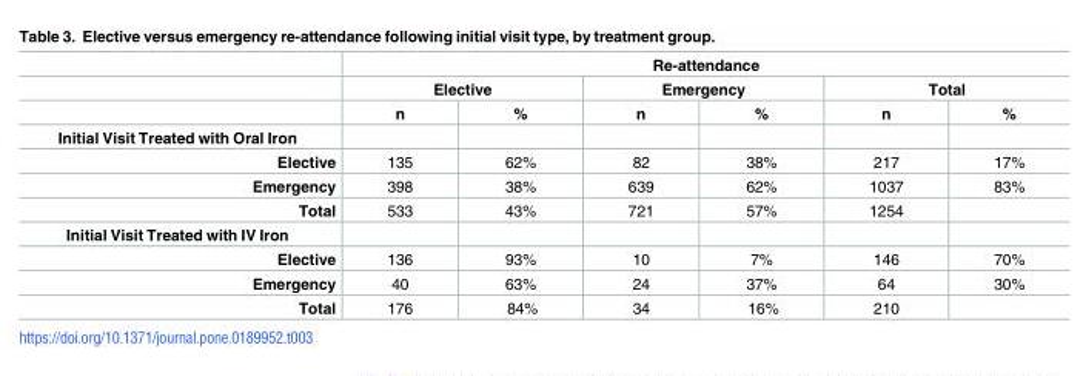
<table><thead><tr><td rowspan="3"></td><td colspan="6">Re-attendance</td></tr><tr><td colspan="2">Elective</td><td colspan="2">Emergency</td><td colspan="2">Total</td></tr><tr><td>n</td><td>%</td><td>n</td><td>%</td><td>n</td><td>%</td></tr></thead><tbody><tr><td colspan="7">Initial Visit Treated with Oral Iron</td></tr><tr><td>Elective</td><td>135</td><td>62%</td><td>82</td><td>38%</td><td>217</td><td>17%</td></tr><tr><td>Emergency</td><td>398</td><td>38%</td><td>639</td><td>62%</td><td>1037</td><td>83%</td></tr><tr><td>Total</td><td>533</td><td>43%</td><td>721</td><td>57%</td><td>1254</td><td></td></tr><tr><td colspan="7">Initial Visit Treated with IV Iron</td></tr><tr><td>Elective</td><td>136</td><td>93%</td><td>10</td><td>7%</td><td>146</td><td>70%</td></tr><tr><td>Emergency</td><td>40</td><td>63%</td><td>24</td><td>37%</td><td>64</td><td>30%</td></tr><tr><td>Total</td><td>176</td><td>84%</td><td>34</td><td>16%</td><td>210</td><td></td></tr></tbody></table>